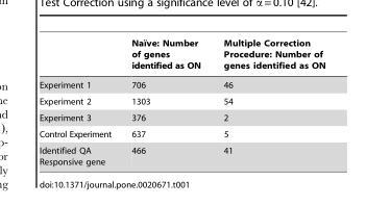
<table><thead><tr><td></td><td>Naı¨ve: Number of genes identified as ON</td><td>Multiple Correction Procedure: Number of genes identified as ON</td></tr></thead><tbody><tr><td>Experiment 1</td><td>706</td><td>46</td></tr><tr><td>Experiment 2</td><td>1303</td><td>54</td></tr><tr><td>Experiment 3</td><td>376</td><td>2</td></tr><tr><td>Control Experiment</td><td>637</td><td>5</td></tr><tr><td>Identified QA Responsive gene</td><td>466</td><td>41</td></tr></tbody></table>